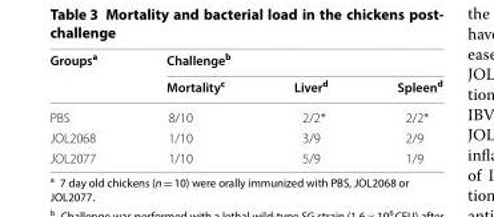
<table><thead><tr><td rowspan="2">Groups<sup>a</sup></td><td colspan="3">Challenge<sup>b</sup></td></tr><tr><td>Mortality<sup>c</sup></td><td>Liver<sup>d</sup></td><td>Spleen<sup>d</sup></td></tr></thead><tbody><tr><td>PBS</td><td>8/10</td><td>2/2*</td><td>2/2*</td></tr><tr><td>JOL2068</td><td>1/10</td><td>3/9</td><td>2/9</td></tr><tr><td>JOL2077</td><td>1/10</td><td>5/9</td><td>1/9</td></tr></tbody></table>